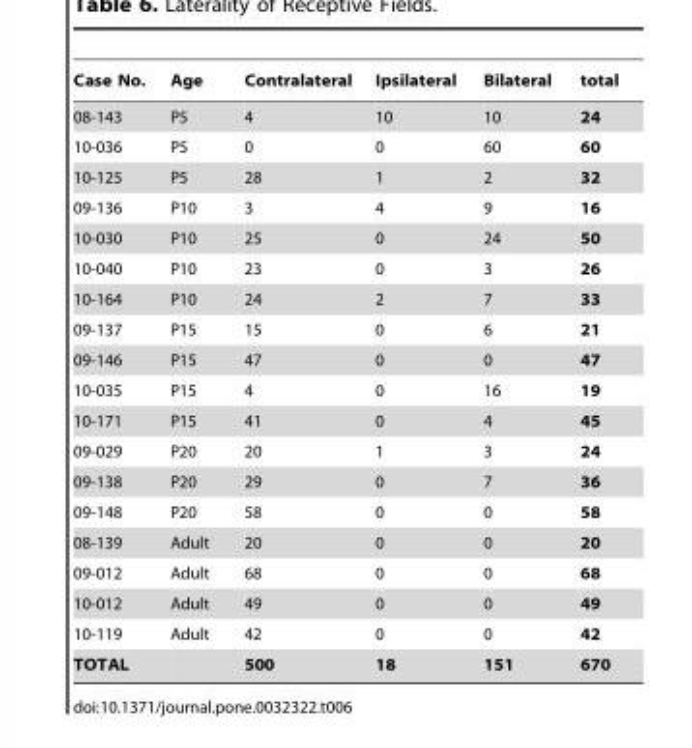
<table><thead><tr><td>Case No.</td><td>Age</td><td>Contralateral</td><td>Ipsilateral</td><td>Bilateral</td><td>total</td></tr></thead><tbody><tr><td>08-143</td><td>P5</td><td>4</td><td>10</td><td>10</td><td>24</td></tr><tr><td>10-036</td><td>P5</td><td>0</td><td>0</td><td>60</td><td>60</td></tr><tr><td>10-125</td><td>P5</td><td>28</td><td>1</td><td>2</td><td>32</td></tr><tr><td>09-136</td><td>P10</td><td>3</td><td>4</td><td>9</td><td>16</td></tr><tr><td>10-030</td><td>P10</td><td>25</td><td>0</td><td>24</td><td>50</td></tr><tr><td>10-040</td><td>P10</td><td>23</td><td>0</td><td>3</td><td>26</td></tr><tr><td>10-164</td><td>P10</td><td>24</td><td>2</td><td>7</td><td>33</td></tr><tr><td>09-137</td><td>P15</td><td>15</td><td>0</td><td>6</td><td>21</td></tr><tr><td>09-146</td><td>P15</td><td>47</td><td>0</td><td>0</td><td>47</td></tr><tr><td>10-035</td><td>P15</td><td>4</td><td>0</td><td>16</td><td>19</td></tr><tr><td>10-171</td><td>P15</td><td>41</td><td>0</td><td>4</td><td>45</td></tr><tr><td>09-029</td><td>P20</td><td>20</td><td>1</td><td>3</td><td>24</td></tr><tr><td>09-138</td><td>P20</td><td>29</td><td>0</td><td>7</td><td>36</td></tr><tr><td>09-148</td><td>P20</td><td>58</td><td>0</td><td>0</td><td>58</td></tr><tr><td>08-139</td><td>Adult</td><td>20</td><td>0</td><td>0</td><td>20</td></tr><tr><td>09-012</td><td>Adult</td><td>68</td><td>0</td><td>0</td><td>68</td></tr><tr><td>10-012</td><td>Adult</td><td>49</td><td>0</td><td>0</td><td>49</td></tr><tr><td>10-119</td><td>Adult</td><td>42</td><td>0</td><td>0</td><td>42</td></tr><tr><td>TOTAL</td><td></td><td>500</td><td>18</td><td>151</td><td>670</td></tr></tbody></table>